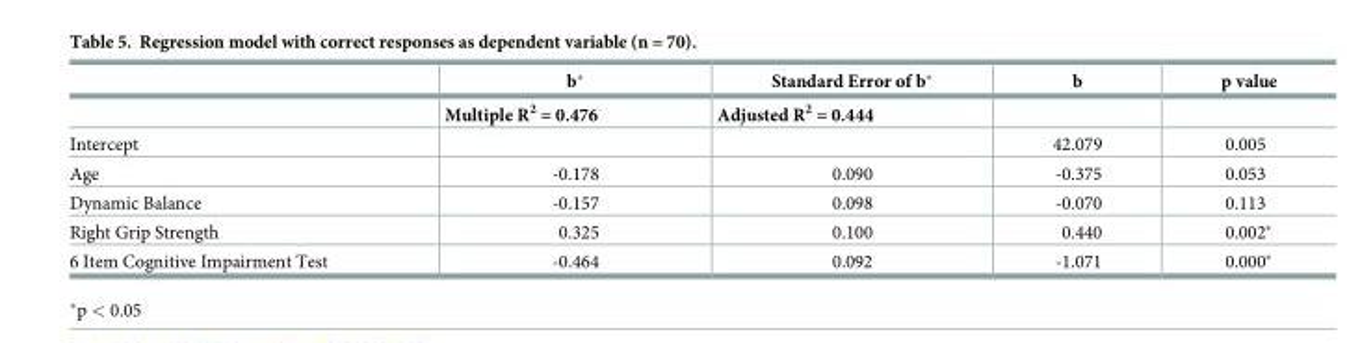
<table><thead><tr><td rowspan="2"></td><td rowspan="2">b* Multiple R2 = 0.476</td><td rowspan="2">Standard Error of b* Adjusted R<sup>2</sup> = 0.444</td><td rowspan="2">b</td><td rowspan="2">p value</td></tr><tr></tr></thead><tbody><tr><td>Intercept</td><td></td><td></td><td>42.079</td><td>0.005</td></tr><tr><td>Age</td><td>-0.178</td><td>0.090</td><td>-0.375</td><td>0.053</td></tr><tr><td>Dynamic Balance</td><td>-0.157</td><td>0.098</td><td>-0.070</td><td>0.113</td></tr><tr><td>Right Grip Strength</td><td>0.325</td><td>0.100</td><td>0.440</td><td>0.002*</td></tr><tr><td>6 Item Cognitive Impairment Test</td><td>-0.464</td><td>0.092</td><td>-1.071</td><td>0.000*</td></tr></tbody></table>